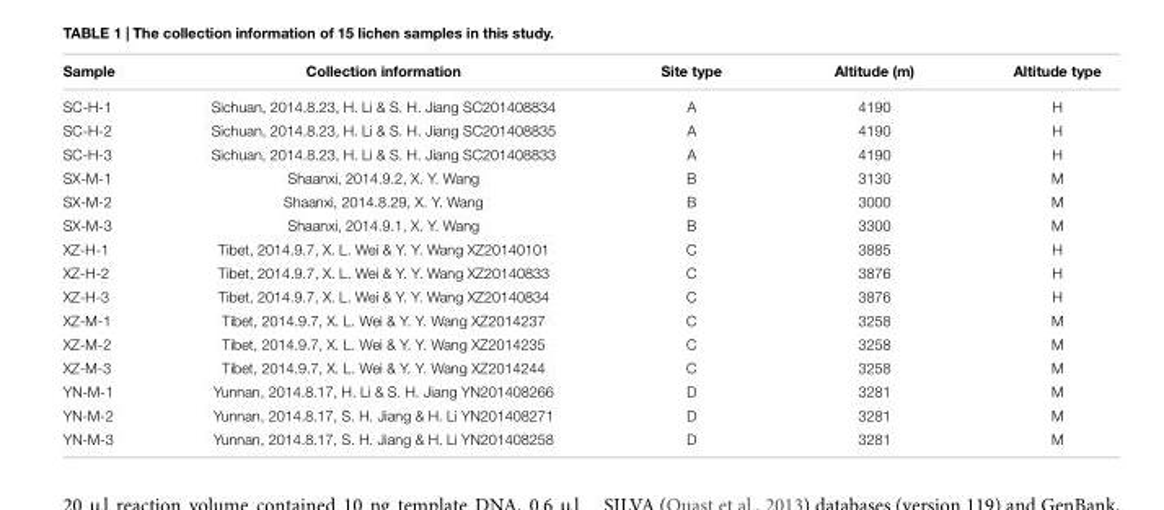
<table><thead><tr><td>Sample</td><td>Collection information</td><td>Site type</td><td>Altitude (m)</td><td>Altitude type</td></tr></thead><tbody><tr><td>SC-H-1</td><td>Sichuan, 2014.8.23, H. Li &amp; S. H. Jiang SC201408834</td><td>A</td><td>4190</td><td>H</td></tr><tr><td>SC-H-2</td><td>Sichuan, 2014.8.23, H. Li &amp; S. H. Jiang SC201408835</td><td>A</td><td>4190</td><td>H</td></tr><tr><td>SC-H-3</td><td>Sichuan, 2014.8.23, H. Li &amp; S. H. Jiang SC201408833</td><td>A</td><td>4190</td><td>H</td></tr><tr><td>SX-M-1</td><td>Shaanxi, 2014.9.2, X. Y. Wang</td><td>B</td><td>3130</td><td>M</td></tr><tr><td>SX-M-2</td><td>Shaanxi, 2014.8.29, X. Y. Wang</td><td>B</td><td>3000</td><td>M</td></tr><tr><td>SX-M-3</td><td>Shaanxi, 2014.9.1, X. Y. Wang</td><td>B</td><td>3300</td><td>M</td></tr><tr><td>XZ-H-1</td><td>Tibet, 2014.9.7, X. L. Wei &amp; Y. Y. Wang XZ20140101</td><td>C</td><td>3885</td><td>H</td></tr><tr><td>XZ-H-2</td><td>Tibet, 2014.9.7, X. L. Wei &amp; Y. Y. Wang XZ20140833</td><td>C</td><td>3876</td><td>H</td></tr><tr><td>XZ-H-3</td><td>Tibet, 2014.9.7, X. L. Wei &amp; Y. Y. Wang XZ20140834</td><td>C</td><td>3876</td><td>H</td></tr><tr><td>XZ-M-1</td><td>Tibet, 2014.9.7, X. L. Wei &amp; Y. Y. Wang XZ2014237</td><td>C</td><td>3258</td><td>M</td></tr><tr><td>XZ-M-2</td><td>Tibet, 2014.9.7, X. L. Wei &amp; Y. Y. Wang XZ2014235</td><td>C</td><td>3258</td><td>M</td></tr><tr><td>XZ-M-3</td><td>Tibet, 2014.9.7, X. L. Wei &amp; Y. Y. Wang XZ2014244</td><td>C</td><td>3258</td><td>M</td></tr><tr><td>YN-M-1</td><td>Yunnan, 2014.8.17, H. Li &amp; S. H. Jiang YN201408266</td><td>D</td><td>3281</td><td>M</td></tr><tr><td>YN-M-2</td><td>Yunnan, 2014.8.17, S. H. Jiang &amp; H. Li YN201408271</td><td>D</td><td>3281</td><td>M</td></tr><tr><td>YN-M-3</td><td>Yunnan, 2014.8.17, S. H. Jiang &amp; H. Li YN201408258</td><td>D</td><td>3281</td><td>M</td></tr></tbody></table>